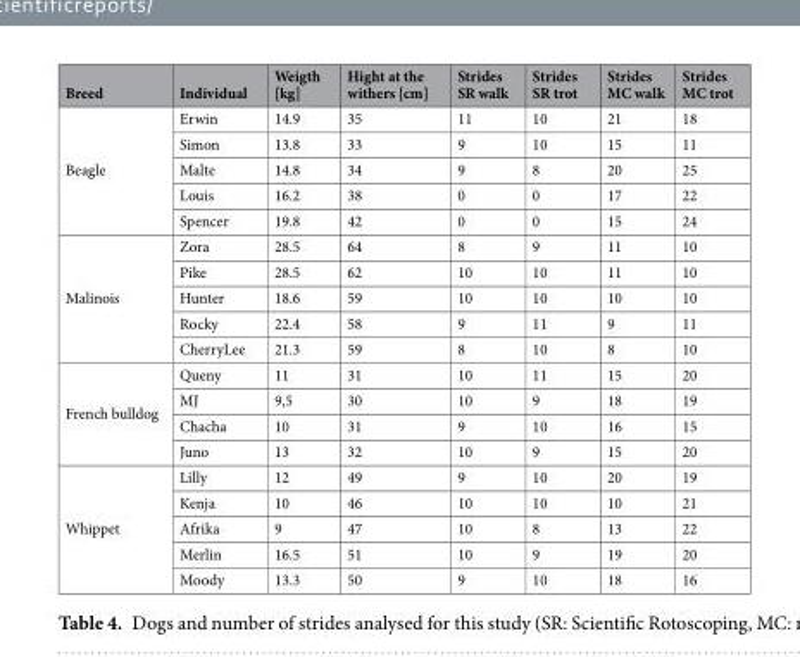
<table><thead><tr><td>Breed</td><td>Individual</td><td>Weigth [kg]</td><td>Hight at the withers [cm]</td><td>Strides SR walk</td><td>Strides SR trot</td><td>Strides MC walk</td><td>Strides MC trot</td></tr></thead><tbody><tr><td rowspan="5">Beagle</td><td>Erwin</td><td>14.9</td><td>35</td><td>11</td><td>10</td><td>21</td><td>18</td></tr><tr><td>Simon</td><td>13.8</td><td>33</td><td>9</td><td>10</td><td>15</td><td>11</td></tr><tr><td>Malte</td><td>14.8</td><td>34</td><td>9</td><td>8</td><td>20</td><td>25</td></tr><tr><td>Louis</td><td>16.2</td><td>38</td><td>0</td><td>0</td><td>17</td><td>22</td></tr><tr><td>Spencer</td><td>19.8</td><td>42</td><td>0</td><td>0</td><td>15</td><td>24</td></tr><tr><td rowspan="5">Malinois</td><td>Zora</td><td>28.5</td><td>64</td><td>8</td><td>9</td><td>11</td><td>10</td></tr><tr><td>Pike</td><td>28.5</td><td>62</td><td>10</td><td>10</td><td>11</td><td>10</td></tr><tr><td>Hunter</td><td>18.6</td><td>59</td><td>10</td><td>10</td><td>10</td><td>10</td></tr><tr><td>Rocky</td><td>22.4</td><td>58</td><td>9</td><td>11</td><td>9</td><td>11</td></tr><tr><td>CherryLee</td><td>21.3</td><td>59</td><td>8</td><td>10</td><td>8</td><td>10</td></tr><tr><td rowspan="4">French bulldog</td><td>Queny</td><td>11</td><td>31</td><td>10</td><td>11</td><td>15</td><td>20</td></tr><tr><td>MJ</td><td>9,5</td><td>30</td><td>10</td><td>9</td><td>18</td><td>19</td></tr><tr><td>Chacha</td><td>10</td><td>31</td><td>9</td><td>10</td><td>16</td><td>15</td></tr><tr><td>Juno</td><td>13</td><td>32</td><td>10</td><td>9</td><td>15</td><td>20</td></tr><tr><td rowspan="5">Whippet</td><td>Lilly</td><td>12</td><td>49</td><td>9</td><td>10</td><td>20</td><td>19</td></tr><tr><td>Kenja</td><td>10</td><td>46</td><td>10</td><td>10</td><td>10</td><td>21</td></tr><tr><td>Afrika</td><td>9</td><td>47</td><td>10</td><td>8</td><td>13</td><td>22</td></tr><tr><td>Merlin</td><td>16.5</td><td>51</td><td>10</td><td>9</td><td>19</td><td>20</td></tr><tr><td>Moody</td><td>13.3</td><td>50</td><td>9</td><td>10</td><td>18</td><td>16</td></tr></tbody></table>